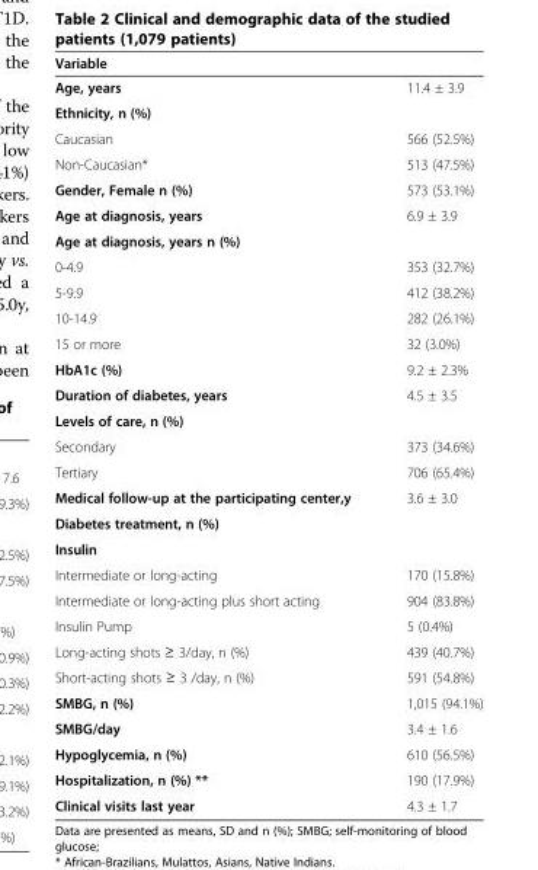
<table><thead><tr><td>Variable</td><td></td></tr></thead><tbody><tr><td>Age, years</td><td>11.4 ± 3.9</td></tr><tr><td colspan="2">Ethnicity, n (%)</td></tr><tr><td>Caucasian</td><td>566 (52.5%)</td></tr><tr><td>Non-Caucasian*</td><td>513 (47.5%)</td></tr><tr><td>Gender, Female n (%)</td><td>573 (53.1%)</td></tr><tr><td>Age at diagnosis, years</td><td>6.9 ± 3.9</td></tr><tr><td colspan="2">Age at diagnosis, years n (%)</td></tr><tr><td>0-4.9</td><td>353 (32.7%)</td></tr><tr><td>5-9.9</td><td>412 (38.2%)</td></tr><tr><td>10-14.9</td><td>282 (26.1%)</td></tr><tr><td>15 or more</td><td>32 (3.0%)</td></tr><tr><td>HbA1c (%)</td><td>9.2 ± 2.3%</td></tr><tr><td>Duration of diabetes, years</td><td>4.5 ± 3.5</td></tr><tr><td colspan="2">Levels of care, n (%)</td></tr><tr><td>Secondary</td><td>373 (34.6%)</td></tr><tr><td>Tertiary</td><td>706 (65.4%)</td></tr><tr><td>Medical follow-up at the participating center,y</td><td>3.6 ± 3.0</td></tr><tr><td colspan="2">Diabetes treatment, n (%)</td></tr><tr><td colspan="2">Insulin</td></tr><tr><td>Intermediate or long-acting</td><td>170 (15.8%)</td></tr><tr><td>Intermediate or long-acting plus short acting</td><td>904 (83.8%)</td></tr><tr><td>Insulin Pump</td><td>5 (0.4%)</td></tr><tr><td>Long-acting shots ≥ 3/day, n (%)</td><td>439 (40.7%)</td></tr><tr><td>Short-acting shots ≥ 3 /day, n (%)</td><td>591 (54.8%)</td></tr><tr><td>SMBG, n (%)</td><td>1,015 (94.1%)</td></tr><tr><td>SMBG/day</td><td>3.4 ± 1.6</td></tr><tr><td>Hypoglycemia, n (%)</td><td>610 (56.5%)</td></tr><tr><td>Hospitalization, n (%) **</td><td>190 (17.9%)</td></tr><tr><td>Clinical visits last year</td><td>4.3 ± 1.7</td></tr></tbody></table>